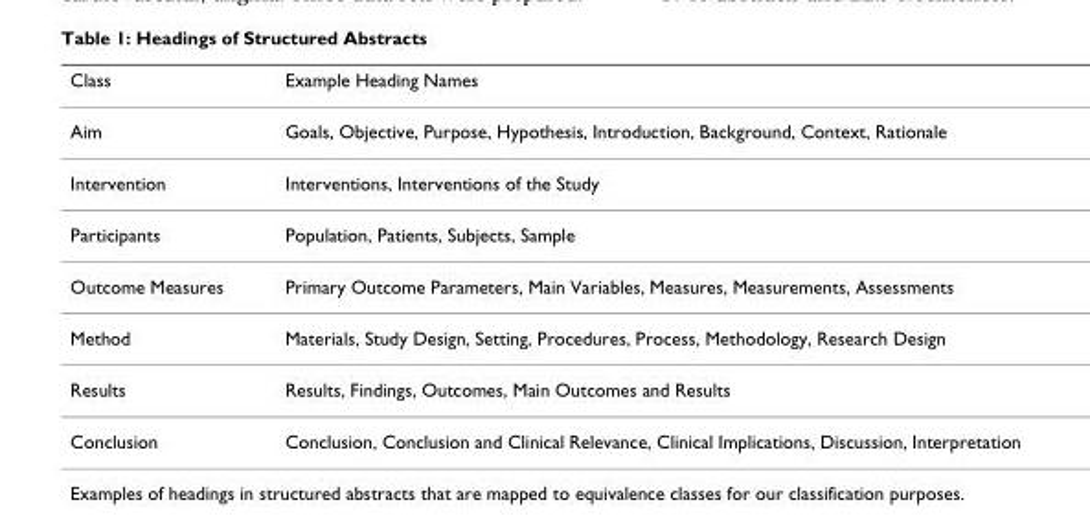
<table><thead><tr><td>Class</td><td>Example Heading Names</td></tr></thead><tbody><tr><td>Aim</td><td>Goals, Objective, Purpose, Hypothesis, Introduction, Background, Context, Rationale</td></tr><tr><td>Intervention</td><td>Interventions, Interventions of the Study</td></tr><tr><td>Participants</td><td>Population, Patients, Subjects, Sample</td></tr><tr><td>Outcome Measures</td><td>Primary Outcome Parameters, Main Variables, Measures, Measurements, Assessments</td></tr><tr><td>Method</td><td>Materials, Study Design, Setting, Procedures, Process, Methodology, Research Design</td></tr><tr><td>Results</td><td>Results, Findings, Outcomes, Main Outcomes and Results</td></tr><tr><td>Conclusion</td><td>Conclusion, Conclusion and Clinical Relevance, Clinical Implications, Discussion, Interpretation</td></tr></tbody></table>